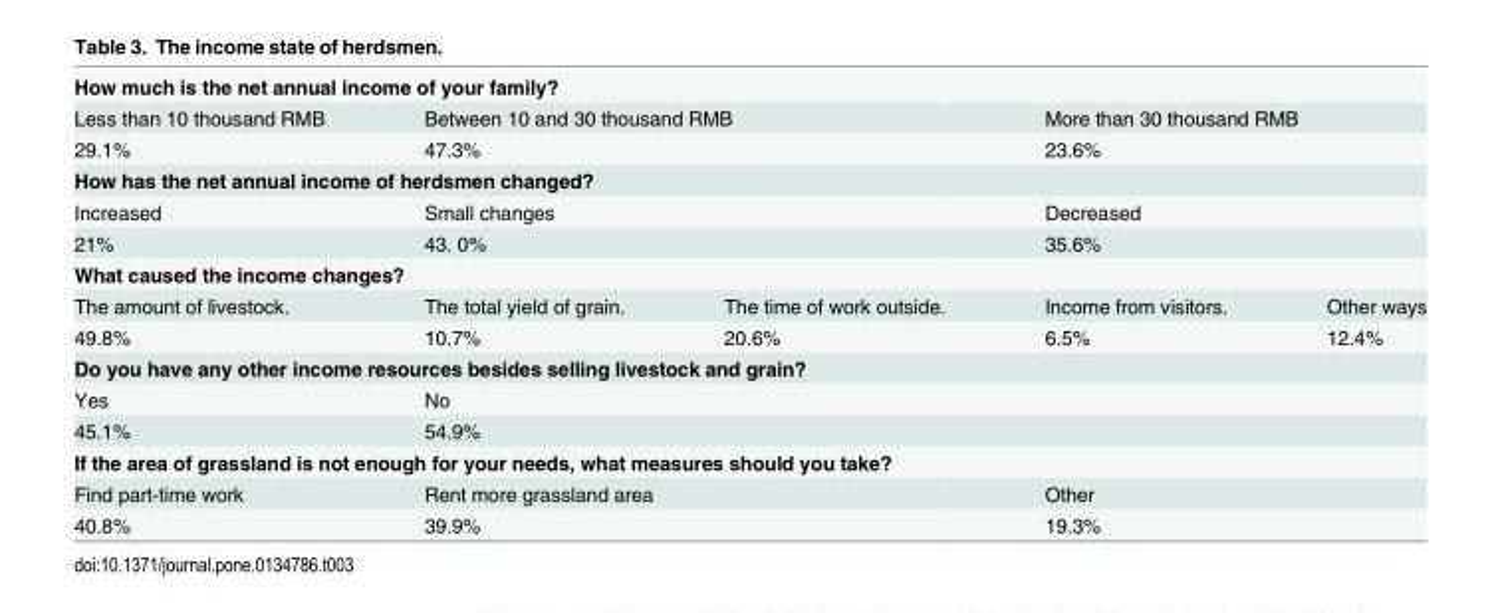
<table><tbody><tr><td colspan="5">How much is the net annual income of your family?</td></tr><tr><td>Less than 10 thousand RMB</td><td colspan="2">Between 10 and 30 thousand RMB</td><td colspan="2">More than 30 thousand RMB</td></tr><tr><td>29.1%</td><td colspan="2">47.3%</td><td colspan="2">23.6%</td></tr><tr><td colspan="5">How has the net annual income of herdsmen changed?</td></tr><tr><td>Increased</td><td colspan="2">Small changes</td><td colspan="2">Decreased</td></tr><tr><td>21%</td><td colspan="2">43. 0%</td><td colspan="2">35.6%</td></tr><tr><td colspan="5">What caused the income changes?</td></tr><tr><td>The amount of livestock.</td><td>The total yield of grain.</td><td>The time of work outside.</td><td>Income from visitors.</td><td>Other ways</td></tr><tr><td>49.8%</td><td>10.7%</td><td>20.6%</td><td>6.5%</td><td>12.4%</td></tr><tr><td colspan="5">Do you have any other income resources besides selling livestock and grain?</td></tr><tr><td>Yes</td><td colspan="4">No</td></tr><tr><td>45.1%</td><td colspan="4">54.9%</td></tr><tr><td colspan="5">If the area of grassland is not enough for your needs, what measures should you take?</td></tr><tr><td>Find part-time work</td><td colspan="2">Rent more grassland area</td><td colspan="2">Other</td></tr><tr><td>40.8%</td><td colspan="2">39.9%</td><td colspan="2">19.3%</td></tr></tbody></table>